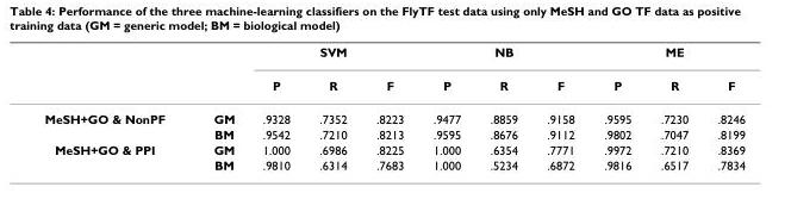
<table><thead><tr><td rowspan="2"></td><td rowspan="2"></td><td colspan="3">SVM</td><td colspan="3">NB</td><td colspan="3">ME</td></tr><tr><td>P</td><td>R</td><td>F</td><td>P</td><td>R</td><td>F</td><td>P</td><td>R</td><td>F</td></tr></thead><tbody><tr><td rowspan="2">MeSH+GO &amp; NonPF</td><td>GM</td><td>.9328</td><td>.7352</td><td>.8223</td><td>.9477</td><td>.8859</td><td>.9158</td><td>.9595</td><td>.7230</td><td>.8246</td></tr><tr><td>BM</td><td>.9542</td><td>.7210</td><td>.8213</td><td>.9595</td><td>.8676</td><td>.9112</td><td>.9802</td><td>.7047</td><td>.8199</td></tr><tr><td rowspan="2">MeSH+GO &amp; PPI</td><td>GM</td><td>1.000</td><td>.6986</td><td>.8225</td><td>1.000</td><td>.6354</td><td>.7771</td><td>.9972</td><td>.7210</td><td>.8369</td></tr><tr><td>BM</td><td>.9810</td><td>.6314</td><td>.7683</td><td>1.000</td><td>.5234</td><td>.6872</td><td>.9816</td><td>.6517</td><td>.7834</td></tr></tbody></table>